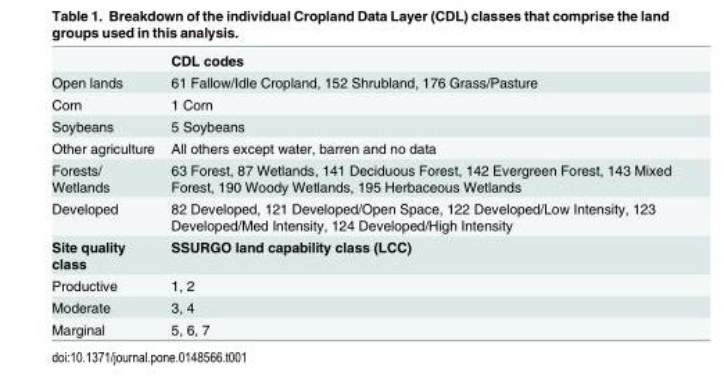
<table><thead><tr><td></td><td>CDL codes</td></tr></thead><tbody><tr><td>Open lands</td><td>61 Fallow/Idle Cropland, 152 Shrubland, 176 Grass/Pasture</td></tr><tr><td>Corn</td><td>1 Corn</td></tr><tr><td>Soybeans</td><td>5 Soybeans</td></tr><tr><td>Other agriculture</td><td>All others except water, barren and no data</td></tr><tr><td>Forests/ Wetlands</td><td>63 Forest, 87 Wetlands, 141 Deciduous Forest, 142 Evergreen Forest, 143 Mixed Forest, 190 Woody Wetlands, 195 Herbaceous Wetlands</td></tr><tr><td>Developed</td><td>82 Developed, 121 Developed/Open Space, 122 Developed/Low Intensity, 123 Developed/Med Intensity, 124 Developed/High Intensity</td></tr><tr><td>Site quality class</td><td>SSURGO land capability class (LCC)</td></tr><tr><td>Productive</td><td>1, 2</td></tr><tr><td>Moderate</td><td>3, 4</td></tr><tr><td>Marginal</td><td>5, 6, 7</td></tr></tbody></table>